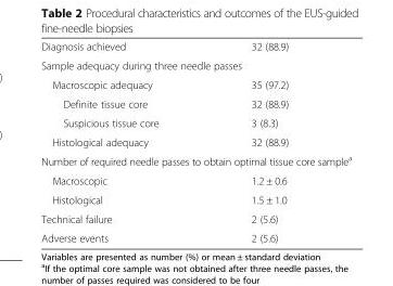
<table><tbody><tr><td>Diagnosis achieved</td><td>32 (88.9)</td></tr><tr><td colspan="2">Sample adequacy during three needle passes</td></tr><tr><td>Macroscopic adequacy</td><td>35 (97.2)</td></tr><tr><td>Definite tissue core</td><td>32 (88.9)</td></tr><tr><td>Suspicious tissue core</td><td>3 (8.3)</td></tr><tr><td>Histological adequacy</td><td>32 (88.9)</td></tr><tr><td colspan="2">Number of required needle passes to obtain optimal tissue core sample<sup>a</sup></td></tr><tr><td>Macroscopic</td><td>1.2 ± 0.6</td></tr><tr><td>Histological</td><td>1.5 ± 1.0</td></tr><tr><td>Technical failure</td><td>2 (5.6)</td></tr><tr><td>Adverse events</td><td>2 (5.6)</td></tr></tbody></table>